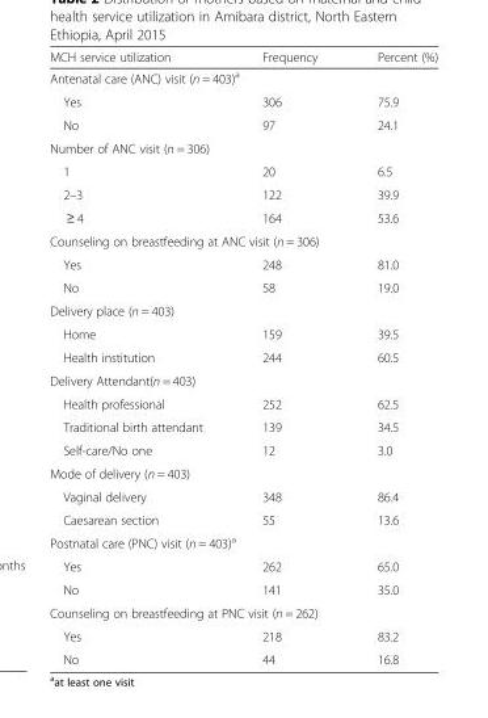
<table><thead><tr><td>MCH service utilization</td><td>Frequency</td><td>Percent (%)</td></tr></thead><tbody><tr><td colspan="3">Antenatal care (ANC) visit (n = 403)<sup>a</sup></td></tr><tr><td>Yes</td><td>306</td><td>75.9</td></tr><tr><td>No</td><td>97</td><td>24.1</td></tr><tr><td colspan="3">Number of ANC visit (n = 306)</td></tr><tr><td>1</td><td>20</td><td>6.5</td></tr><tr><td>2–3</td><td>122</td><td>39.9</td></tr><tr><td>≥ 4</td><td>164</td><td>53.6</td></tr><tr><td colspan="3">Counseling on breastfeeding at ANC visit (n = 306)</td></tr><tr><td>Yes</td><td>248</td><td>81.0</td></tr><tr><td>No</td><td>58</td><td>19.0</td></tr><tr><td colspan="3">Delivery place (n = 403)</td></tr><tr><td>Home</td><td>159</td><td>39.5</td></tr><tr><td>Health institution</td><td>244</td><td>60.5</td></tr><tr><td colspan="3">Delivery Attendant(n = 403)</td></tr><tr><td>Health professional</td><td>252</td><td>62.5</td></tr><tr><td>Traditional birth attendant</td><td>139</td><td>34.5</td></tr><tr><td>Self-care/No one</td><td>12</td><td>3.0</td></tr><tr><td colspan="3">Mode of delivery (n = 403)</td></tr><tr><td>Vaginal delivery</td><td>348</td><td>86.4</td></tr><tr><td>Caesarean section</td><td>55</td><td>13.6</td></tr><tr><td colspan="3">Postnatal care (PNC) visit (n = 403)<sup>a</sup></td></tr><tr><td>Yes</td><td>262</td><td>65.0</td></tr><tr><td>No</td><td>141</td><td>35.0</td></tr><tr><td colspan="3">Counseling on breastfeeding at PNC visit (n = 262)</td></tr><tr><td>Yes</td><td>218</td><td>83.2</td></tr><tr><td>No</td><td>44</td><td>16.8</td></tr></tbody></table>